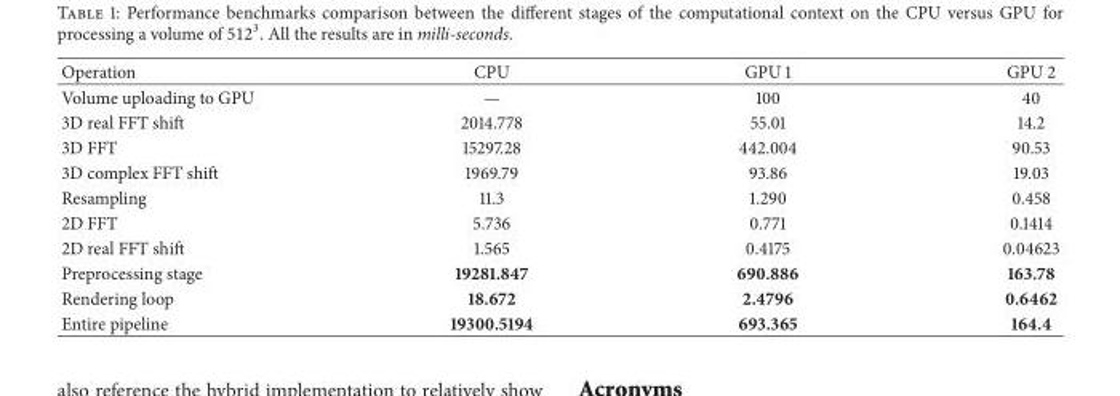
<table><thead><tr><td>Operation</td><td>CPU</td><td>GPU 1</td><td>GPU 2</td></tr></thead><tbody><tr><td>Volume uploading to GPU</td><td>—</td><td>100</td><td>40</td></tr><tr><td>3D real FFT shift</td><td>2014.778</td><td>55.01</td><td>14.2</td></tr><tr><td>3D FFT</td><td>15297.28</td><td>442.004</td><td>90.53</td></tr><tr><td>3D complex FFT shift</td><td>1969.79</td><td>93.86</td><td>19.03</td></tr><tr><td>Resampling</td><td>11.3</td><td>1.290</td><td>0.458</td></tr><tr><td>2D FFT</td><td>5.736</td><td>0.771</td><td>0.1414</td></tr><tr><td>2D real FFT shift</td><td>1.565</td><td>0.4175</td><td>0.04623</td></tr><tr><td>Preprocessing stage</td><td>19281.847</td><td>690.886</td><td>163.78</td></tr><tr><td>Rendering loop</td><td>18.672</td><td>2.4796</td><td>0.6462</td></tr><tr><td>Entire pipeline</td><td>19300.5194</td><td>693.365</td><td>164.4</td></tr></tbody></table>